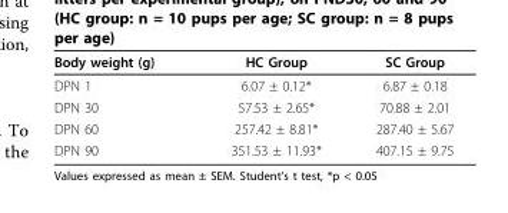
<table><thead><tr><td>Body weight (g)</td><td>HC Group</td><td>SC Group</td></tr></thead><tbody><tr><td>DPN 1</td><td>6.07 ± 0.12*</td><td>6.87 ± 0.18</td></tr><tr><td>DPN 30</td><td>57.53 ± 2.65*</td><td>70.88 ± 2.01</td></tr><tr><td>DPN 60</td><td>257.42 ± 8.81*</td><td>287.40 ± 5.67</td></tr><tr><td>DPN 90</td><td>351.53 ± 11.93*</td><td>407.15 ± 9.75</td></tr></tbody></table>